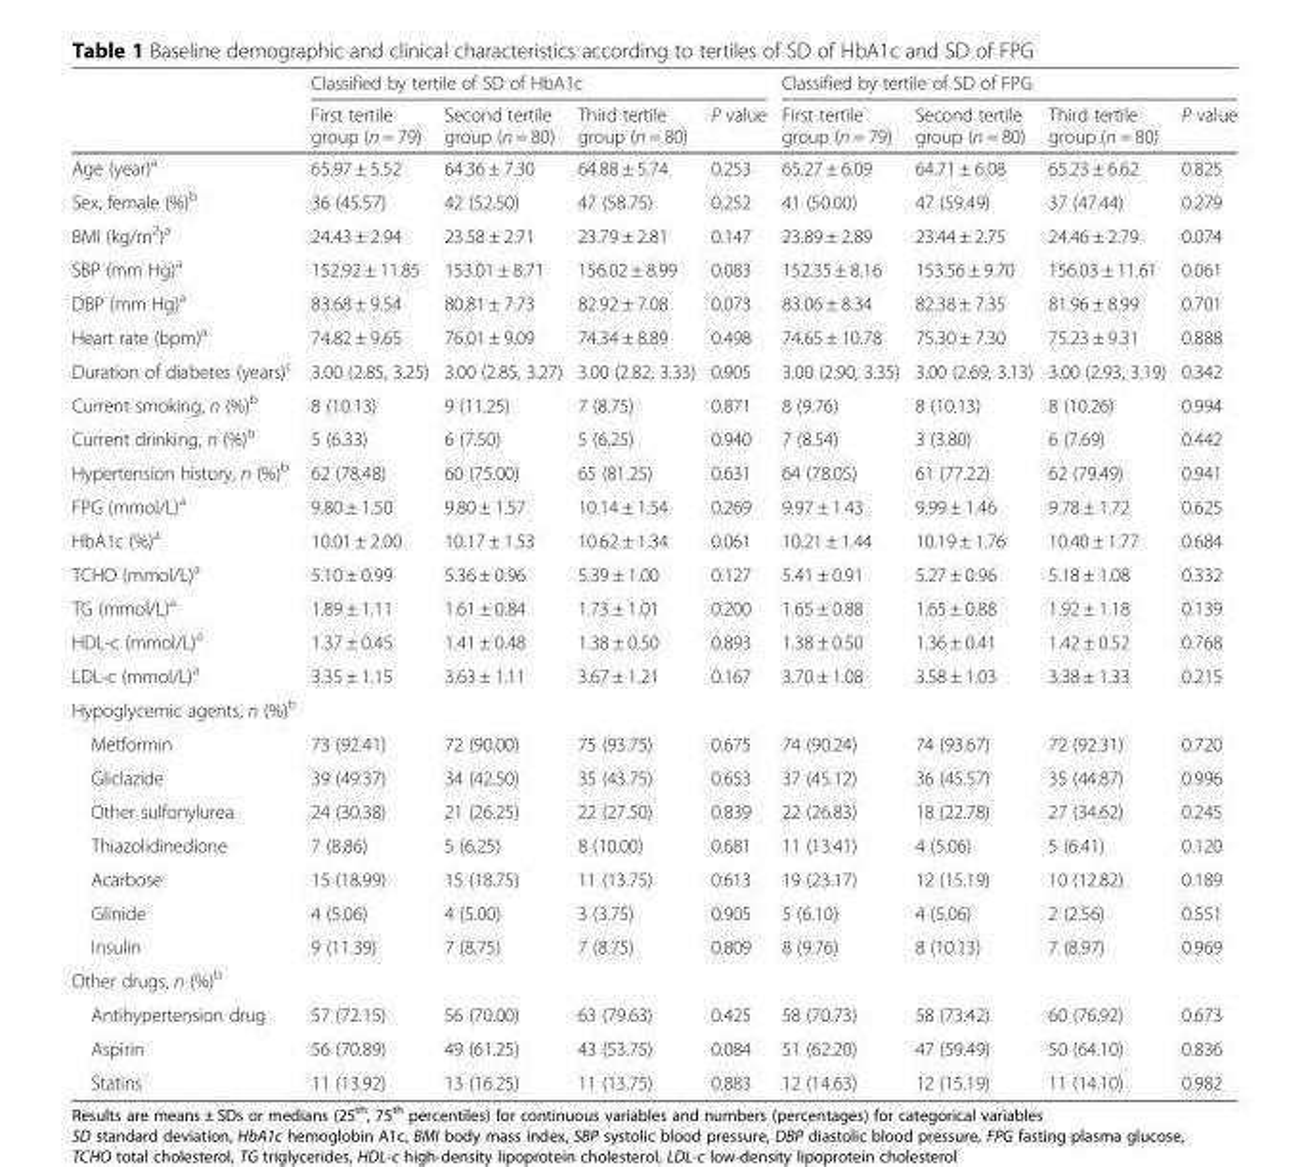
<table><thead><tr><td rowspan="2"></td><td colspan="4">Classified by tertile of SD of HbA1c</td><td colspan="4">Classified by tertile of SD of FPG</td></tr><tr><td>First tertile group (n = 79)</td><td>Second tertile group (n = 80)</td><td>Third tertile group (n = 80)</td><td>P value</td><td>First tertile group (n = 79)</td><td>Second tertile group (n = 80)</td><td>Third tertile group (n = 80)</td><td>P value</td></tr></thead><tbody><tr><td>Age (year)<sup>a</sup></td><td>65.97 ± 5.52</td><td>64.36 ± 7.30</td><td>64.88 ± 5.74</td><td>0.253</td><td>65.27 ± 6.09</td><td>64.71 ± 6.08</td><td>65.23 ± 6.62</td><td>0.825</td></tr><tr><td>Sex, female (%)<sup>b</sup></td><td>36 (45.57)</td><td>42 (52.50)</td><td>47 (58.75)</td><td>0.252</td><td>41 (50.00)</td><td>47 (59.49)</td><td>37 (47.44)</td><td>0.279</td></tr><tr><td>BMI (kg/m<sup>2</sup>)<sup>a</sup></td><td>24.43 ± 2.94</td><td>23.58 ± 2.71</td><td>23.79 ± 2.81</td><td>0.147</td><td>23.89 ± 2.89</td><td>23.44 ± 2.75</td><td>24.46 ± 2.79</td><td>0.074</td></tr><tr><td>SBP (mm Hg)<sup>a</sup></td><td>152.92 ± 11.85</td><td>153.01 ± 8.71</td><td>156.02 ± 8.99</td><td>0.083</td><td>152.35 ± 8.16</td><td>153.56 ± 9.70</td><td>156.03 ± 11.61</td><td>0.061</td></tr><tr><td>DBP (mm Hg)<sup>a</sup></td><td>83.68 ± 9.54</td><td>80.81 ± 7.73</td><td>82.92 ± 7.08</td><td>0.073</td><td>83.06 ± 8.34</td><td>82.38 ± 7.35</td><td>81.96 ± 8.99</td><td>0.701</td></tr><tr><td>Heart rate (bpm)<sup>a</sup></td><td>74.82 ± 9.65</td><td>76.01 ± 9.09</td><td>74.34 ± 8.89</td><td>0.498</td><td>74.65 ± 10.78</td><td>75.30 ± 7.30</td><td>75.23 ± 9.31</td><td>0.888</td></tr><tr><td>Duration of diabetes (years)<sup>c</sup></td><td>3.00 (2.85, 3.25)</td><td>3.00 (2.85, 3.27)</td><td>3.00 (2.82, 3.33)</td><td>0.905</td><td>3.00 (2.90, 3.35)</td><td>3.00 (2.69, 3.13)</td><td>3.00 (2.93, 3.19)</td><td>0.342</td></tr><tr><td>Current smoking, n (%)<sup>b</sup></td><td>8 (10.13)</td><td>9 (11.25)</td><td>7 (8.75)</td><td>0.871</td><td>8 (9.76)</td><td>8 (10.13)</td><td>8 (10.26)</td><td>0.994</td></tr><tr><td>Current drinking, n (%)<sup>b</sup></td><td>5 (6.33)</td><td>6 (7.50)</td><td>5 (6.25)</td><td>0.940</td><td>7 (8.54)</td><td>3 (3.80)</td><td>6 (7.69)</td><td>0.442</td></tr><tr><td>Hypertension history, n (%)<sup>b</sup></td><td>62 (78.48)</td><td>60 (75.00)</td><td>65 (81.25)</td><td>0.631</td><td>64 (78.05)</td><td>61 (77.22)</td><td>62 (79.49)</td><td>0.941</td></tr><tr><td>FPG (mmol/L)<sup>a</sup></td><td>9.80 ± 1.50</td><td>9.80 ± 1.57</td><td>10.14 ± 1.54</td><td>0.269</td><td>9.97 ± 1.43</td><td>9.99 ± 1.46</td><td>9.78 ± 1.72</td><td>0.625</td></tr><tr><td>HbA1c (%)<sup>a</sup></td><td>10.01 ± 2.00</td><td>10.17 ± 1.53</td><td>10.62 ± 1.34</td><td>0.061</td><td>10.21 ± 1.44</td><td>10.19 ± 1.76</td><td>10.40 ± 1.77</td><td>0.684</td></tr><tr><td>TCHO (mmol/L)<sup>a</sup></td><td>5.10 ± 0.99</td><td>5.36 ± 0.96</td><td>5.39 ± 1.00</td><td>0.127</td><td>5.41 ± 0.91</td><td>5.27 ± 0.96</td><td>5.18 ± 1.08</td><td>0.332</td></tr><tr><td>TG (mmol/L)<sup>a</sup></td><td>1.89 ± 1.11</td><td>1.61 ± 0.84</td><td>1.73 ± 1.01</td><td>0.200</td><td>1.65 ± 0.88</td><td>1.65 ± 0.88</td><td>1.92 ± 1.18</td><td>0.139</td></tr><tr><td>HDL-c (mmol/L)<sup>a</sup></td><td>1.37 ± 0.45</td><td>1.41 ± 0.48</td><td>1.38 ± 0.50</td><td>0.893</td><td>1.38 ± 0.50</td><td>1.36 ± 0.41</td><td>1.42 ± 0.52</td><td>0.768</td></tr><tr><td>LDL-c (mmol/L)<sup>a</sup></td><td>3.35 ± 1.15</td><td>3.63 ± 1.11</td><td>3.67 ± 1.21</td><td>0.167</td><td>3.70 ± 1.08</td><td>3.58 ± 1.03</td><td>3.38 ± 1.33</td><td>0.215</td></tr><tr><td colspan="9">Hypoglycemic agents, n (%)<sup>b</sup></td></tr><tr><td>Metformin</td><td>73 (92.41)</td><td>72 (90.00)</td><td>75 (93.75)</td><td>0.675</td><td>74 (90.24)</td><td>74 (93.67)</td><td>72 (92.31)</td><td>0.720</td></tr><tr><td>Gliclazide</td><td>39 (49.37)</td><td>34 (42.50)</td><td>35 (43.75)</td><td>0.653</td><td>37 (45.12)</td><td>36 (45.57)</td><td>35 (44.87)</td><td>0.996</td></tr><tr><td>Other sulfonylurea</td><td>24 (30.38)</td><td>21 (26.25)</td><td>22 (27.50)</td><td>0.839</td><td>22 (26.83)</td><td>18 (22.78)</td><td>27 (34.62)</td><td>0.245</td></tr><tr><td>Thiazolidinedione</td><td>7 (8.86)</td><td>5 (6.25)</td><td>8 (10.00)</td><td>0.681</td><td>11 (13.41)</td><td>4 (5.06)</td><td>5 (6.41)</td><td>0.120</td></tr><tr><td>Acarbose</td><td>15 (18.99)</td><td>15 (18.75)</td><td>11 (13.75)</td><td>0.613</td><td>19 (23.17)</td><td>12 (15.19)</td><td>10 (12.82)</td><td>0.189</td></tr><tr><td>Glinide</td><td>4 (5.06)</td><td>4 (5.00)</td><td>3 (3.75)</td><td>0.905</td><td>5 (6.10)</td><td>4 (5.06)</td><td>2 (2.56)</td><td>0.551</td></tr><tr><td>Insulin</td><td>9 (11.39)</td><td>7 (8.75)</td><td>7 (8.75)</td><td>0.809</td><td>8 (9.76)</td><td>8 (10.13)</td><td>7 (8.97)</td><td>0.969</td></tr><tr><td colspan="9">Other drugs, n (%)<sup>b</sup></td></tr><tr><td>Antihypertension drug</td><td>57 (72.15)</td><td>56 (70.00)</td><td>63 (79.63)</td><td>0.425</td><td>58 (70.73)</td><td>58 (73.42)</td><td>60 (76.92)</td><td>0.673</td></tr><tr><td>Aspirin</td><td>56 (70.89)</td><td>49 (61.25)</td><td>43 (53.75)</td><td>0.084</td><td>51 (62.20)</td><td>47 (59.49)</td><td>50 (64.10)</td><td>0.836</td></tr><tr><td>Statins</td><td>11 (13.92)</td><td>13 (16.25)</td><td>11 (13.75)</td><td>0.883</td><td>12 (14.63)</td><td>12 (15.19)</td><td>11 (14.10)</td><td>0.982</td></tr></tbody></table>